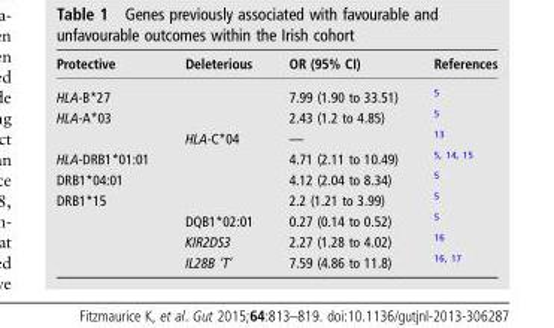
<table><thead><tr><td>Protective</td><td>Deleterious</td><td>OR (95% CI)</td><td>References</td></tr></thead><tbody><tr><td>HLA-B*27</td><td></td><td>7.99 (1.90 to 33.51)</td><td>5</td></tr><tr><td rowspan="2">HLA-A*03</td><td></td><td>2.43 (1.2 to 4.85)</td><td>5</td></tr><tr><td>HLA-C*04</td><td>—</td><td>13</td></tr><tr><td>HLA-DRB1*01:01</td><td></td><td>4.71 (2.11 to 10.49)</td><td>5<sup>,</sup> 14<sup>,</sup> 15</td></tr><tr><td>DRB1*04:01</td><td></td><td>4.12 (2.04 to 8.34)</td><td>5</td></tr><tr><td rowspan="4">DRB1*15</td><td></td><td>2.2 (1.21 to 3.99)</td><td>5</td></tr><tr><td>DQB1*02:01</td><td>0.27 (0.14 to 0.52)</td><td>5</td></tr><tr><td>KIR2DS3</td><td>2.27 (1.28 to 4.02)</td><td>16</td></tr><tr><td>IL28B ‘T’</td><td>7.59 (4.86 to 11.8)</td><td>16<sup>,</sup> 17</td></tr></tbody></table>